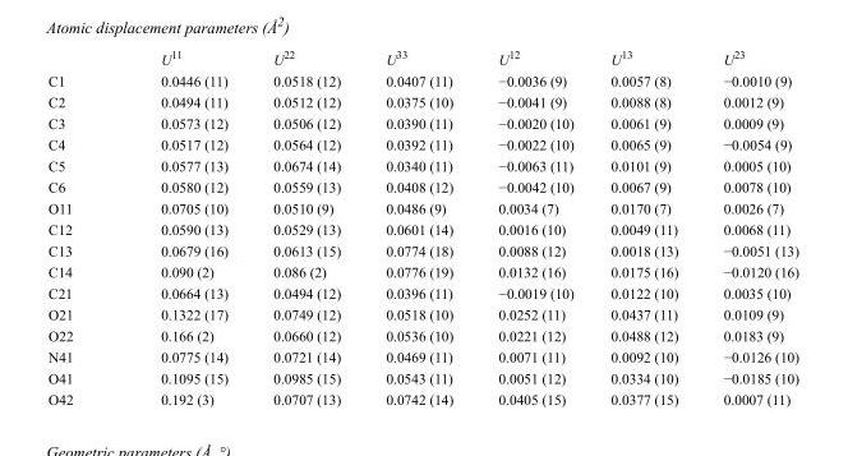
<table><thead><tr><td></td><td>U<sup>11</sup></td><td>U<sup>22</sup></td><td>U<sup>33</sup></td><td>U<sup>12</sup></td><td>U<sup>13</sup></td><td>U<sup>23</sup></td></tr></thead><tbody><tr><td>C1</td><td>0.0446 (11)</td><td>0.0518 (12)</td><td>0.0407 (11)</td><td>−0.0036 (9)</td><td>0.0057 (8)</td><td>−0.0010 (9)</td></tr><tr><td>C2</td><td>0.0494 (11)</td><td>0.0512 (12)</td><td>0.0375 (10)</td><td>−0.0041 (9)</td><td>0.0088 (8)</td><td>0.0012 (9)</td></tr><tr><td>C3</td><td>0.0573 (12)</td><td>0.0506 (12)</td><td>0.0390 (11)</td><td>−0.0020 (10)</td><td>0.0061 (9)</td><td>0.0009 (9)</td></tr><tr><td>C4</td><td>0.0517 (12)</td><td>0.0564 (12)</td><td>0.0392 (11)</td><td>−0.0022 (10)</td><td>0.0065 (9)</td><td>−0.0054 (9)</td></tr><tr><td>C5</td><td>0.0577 (13)</td><td>0.0674 (14)</td><td>0.0340 (11)</td><td>−0.0063 (11)</td><td>0.0101 (9)</td><td>0.0005 (10)</td></tr><tr><td>C6</td><td>0.0580 (12)</td><td>0.0559 (13)</td><td>0.0408 (12)</td><td>−0.0042 (10)</td><td>0.0067 (9)</td><td>0.0078 (10)</td></tr><tr><td>O11</td><td>0.0705 (10)</td><td>0.0510 (9)</td><td>0.0486 (9)</td><td>0.0034 (7)</td><td>0.0170 (7)</td><td>0.0026 (7)</td></tr><tr><td>C12</td><td>0.0590 (13)</td><td>0.0529 (13)</td><td>0.0601 (14)</td><td>0.0016 (10)</td><td>0.0049 (11)</td><td>0.0068 (11)</td></tr><tr><td>C13</td><td>0.0679 (16)</td><td>0.0613 (15)</td><td>0.0774 (18)</td><td>0.0088 (12)</td><td>0.0018 (13)</td><td>−0.0051 (13)</td></tr><tr><td>C14</td><td>0.090 (2)</td><td>0.086 (2)</td><td>0.0776 (19)</td><td>0.0132 (16)</td><td>0.0175 (16)</td><td>−0.0120 (16)</td></tr><tr><td>C21</td><td>0.0664 (13)</td><td>0.0494 (12)</td><td>0.0396 (11)</td><td>−0.0019 (10)</td><td>0.0122 (10)</td><td>0.0035 (10)</td></tr><tr><td>O21</td><td>0.1322 (17)</td><td>0.0749 (12)</td><td>0.0518 (10)</td><td>0.0252 (11)</td><td>0.0437 (11)</td><td>0.0109 (9)</td></tr><tr><td>O22</td><td>0.166 (2)</td><td>0.0660 (12)</td><td>0.0536 (10)</td><td>0.0221 (12)</td><td>0.0488 (12)</td><td>0.0183 (9)</td></tr><tr><td>N41</td><td>0.0775 (14)</td><td>0.0721 (14)</td><td>0.0469 (11)</td><td>0.0071 (11)</td><td>0.0092 (10)</td><td>−0.0126 (10)</td></tr><tr><td>O41</td><td>0.1095 (15)</td><td>0.0985 (15)</td><td>0.0543 (11)</td><td>0.0051 (12)</td><td>0.0334 (10)</td><td>−0.0185 (10)</td></tr><tr><td>O42</td><td>0.192 (3)</td><td>0.0707 (13)</td><td>0.0742 (14)</td><td>0.0405 (15)</td><td>0.0377 (15)</td><td>0.0007 (11)</td></tr></tbody></table>